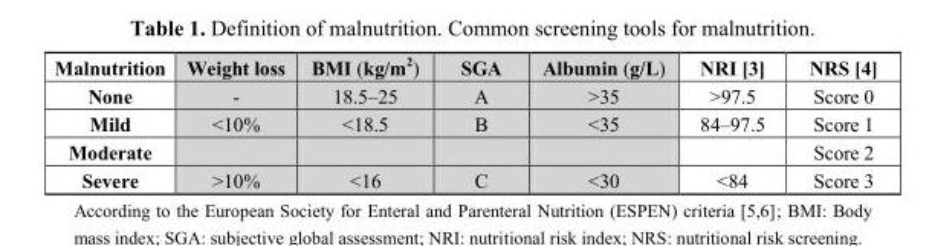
<table><thead><tr><td>Malnutrition</td><td>Weight loss</td><td>BMI (kg/m<sup>2</sup>)</td><td>SGA</td><td>Albumin (g/L)</td><td>NRI [3]</td><td>NRS [4]</td></tr></thead><tbody><tr><td>None</td><td>-</td><td>18.5–25</td><td>A</td><td>&gt;35</td><td>&gt;97.5</td><td>Score 0</td></tr><tr><td>Mild</td><td>&lt;10%</td><td>&lt;18.5</td><td>B</td><td>&lt;35</td><td>84–97.5</td><td>Score 1</td></tr><tr><td>Moderate</td><td></td><td></td><td></td><td></td><td></td><td>Score 2</td></tr><tr><td>Severe</td><td>&gt;10%</td><td>&lt;16</td><td>C</td><td>&lt;30</td><td>&lt;84</td><td>Score 3</td></tr></tbody></table>